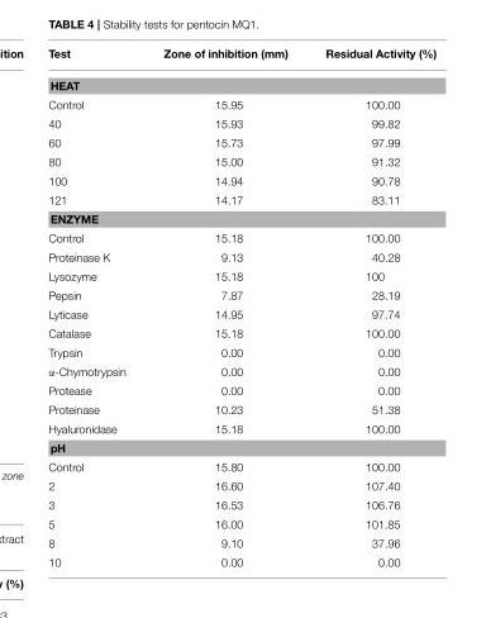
<table><thead><tr><td>Test</td><td>Zone of inhibition (mm)</td><td>Residual Activity (%)</td></tr></thead><tbody><tr><td colspan="3">HEAT</td></tr><tr><td>Control</td><td>15.95</td><td>100.00</td></tr><tr><td>40</td><td>15.93</td><td>99.82</td></tr><tr><td>60</td><td>15.73</td><td>97.99</td></tr><tr><td>80</td><td>15.00</td><td>91.32</td></tr><tr><td>100</td><td>14.94</td><td>90.78</td></tr><tr><td>121</td><td>14.17</td><td>83.11</td></tr><tr><td colspan="3">ENZYME</td></tr><tr><td>Control</td><td>15.18</td><td>100.00</td></tr><tr><td>Proteinase K</td><td>9.13</td><td>40.28</td></tr><tr><td>Lysozyme</td><td>15.18</td><td>100</td></tr><tr><td>Pepsin</td><td>7.87</td><td>28.19</td></tr><tr><td>Lyticase</td><td>14.95</td><td>97.74</td></tr><tr><td>Catalase</td><td>15.18</td><td>100.00</td></tr><tr><td>Trypsin</td><td>0.00</td><td>0.00</td></tr><tr><td>α-Chymotrypsin</td><td>0.00</td><td>0.00</td></tr><tr><td>Protease</td><td>0.00</td><td>0.00</td></tr><tr><td>Proteinase</td><td>10.23</td><td>51.38</td></tr><tr><td>Hyaluronidase</td><td>15.18</td><td>100.00</td></tr><tr><td colspan="3">pH</td></tr><tr><td>Control</td><td>15.80</td><td>100.00</td></tr><tr><td>2</td><td>16.60</td><td>107.40</td></tr><tr><td>3</td><td>16.53</td><td>106.76</td></tr><tr><td>5</td><td>16.00</td><td>101.85</td></tr><tr><td>8</td><td>9.10</td><td>37.96</td></tr><tr><td>10</td><td>0.00</td><td>0.00</td></tr></tbody></table>